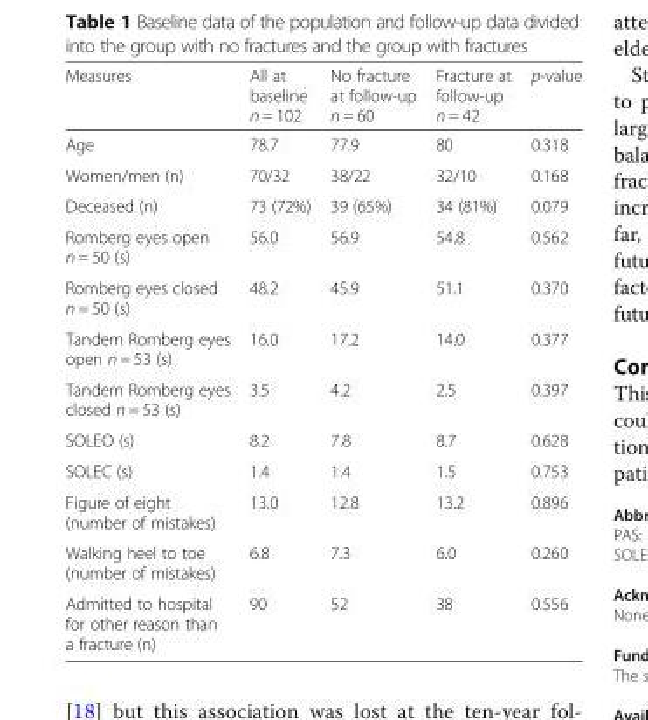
<table><thead><tr><td>Measures</td><td>All at baseline n = 102</td><td>No fracture at follow-up n = 60</td><td>Fracture at follow-up n = 42</td><td>p-value</td></tr></thead><tbody><tr><td>Age</td><td>78.7</td><td>77.9</td><td>80</td><td>0.318</td></tr><tr><td>Women/men (n)</td><td>70/32</td><td>38/22</td><td>32/10</td><td>0.168</td></tr><tr><td>Deceased (n)</td><td>73 (72%)</td><td>39 (65%)</td><td>34 (81%)</td><td>0.079</td></tr><tr><td>Romberg eyes open n = 50 (s)</td><td>56.0</td><td>56.9</td><td>54.8</td><td>0.562</td></tr><tr><td>Romberg eyes closed n = 50 (s)</td><td>48.2</td><td>45.9</td><td>51.1</td><td>0.370</td></tr><tr><td>Tandem Romberg eyes open n = 53 (s)</td><td>16.0</td><td>17.2</td><td>14.0</td><td>0.377</td></tr><tr><td>Tandem Romberg eyes closed n = 53 (s)</td><td>3.5</td><td>4.2</td><td>2.5</td><td>0.397</td></tr><tr><td>SOLEO (s)</td><td>8.2</td><td>7.8</td><td>8.7</td><td>0.628</td></tr><tr><td>SOLEC (s)</td><td>1.4</td><td>1.4</td><td>1.5</td><td>0.753</td></tr><tr><td>Figure of eight (number of mistakes)</td><td>13.0</td><td>12.8</td><td>13.2</td><td>0.896</td></tr><tr><td>Walking heel to toe (number of mistakes)</td><td>6.8</td><td>7.3</td><td>6.0</td><td>0.260</td></tr><tr><td>Admitted to hospital for other reason than a fracture (n)</td><td>90</td><td>52</td><td>38</td><td>0.556</td></tr></tbody></table>